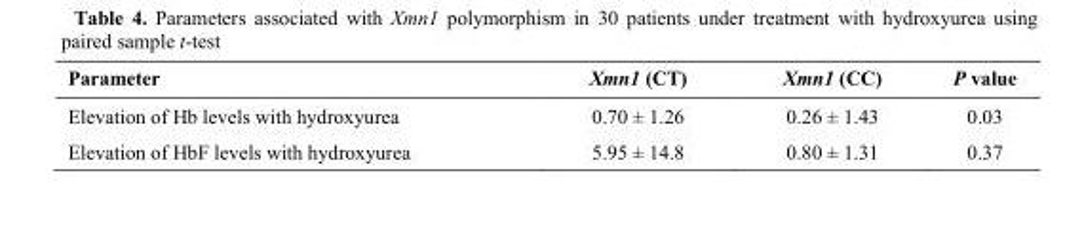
<table><thead><tr><td>Parameter</td><td>Xmn1 (CT)</td><td>Xmn1 (CC)</td><td>P value</td></tr></thead><tbody><tr><td>Elevation of Hb levels with hydroxyurea</td><td>0.70 ± 1.26</td><td>0.26 ± 1.43</td><td>0.03</td></tr><tr><td>Elevation of HbF levels with hydroxyurea</td><td>5.95 ± 14.8</td><td>0.80 ± 1.31</td><td>0.37</td></tr></tbody></table>